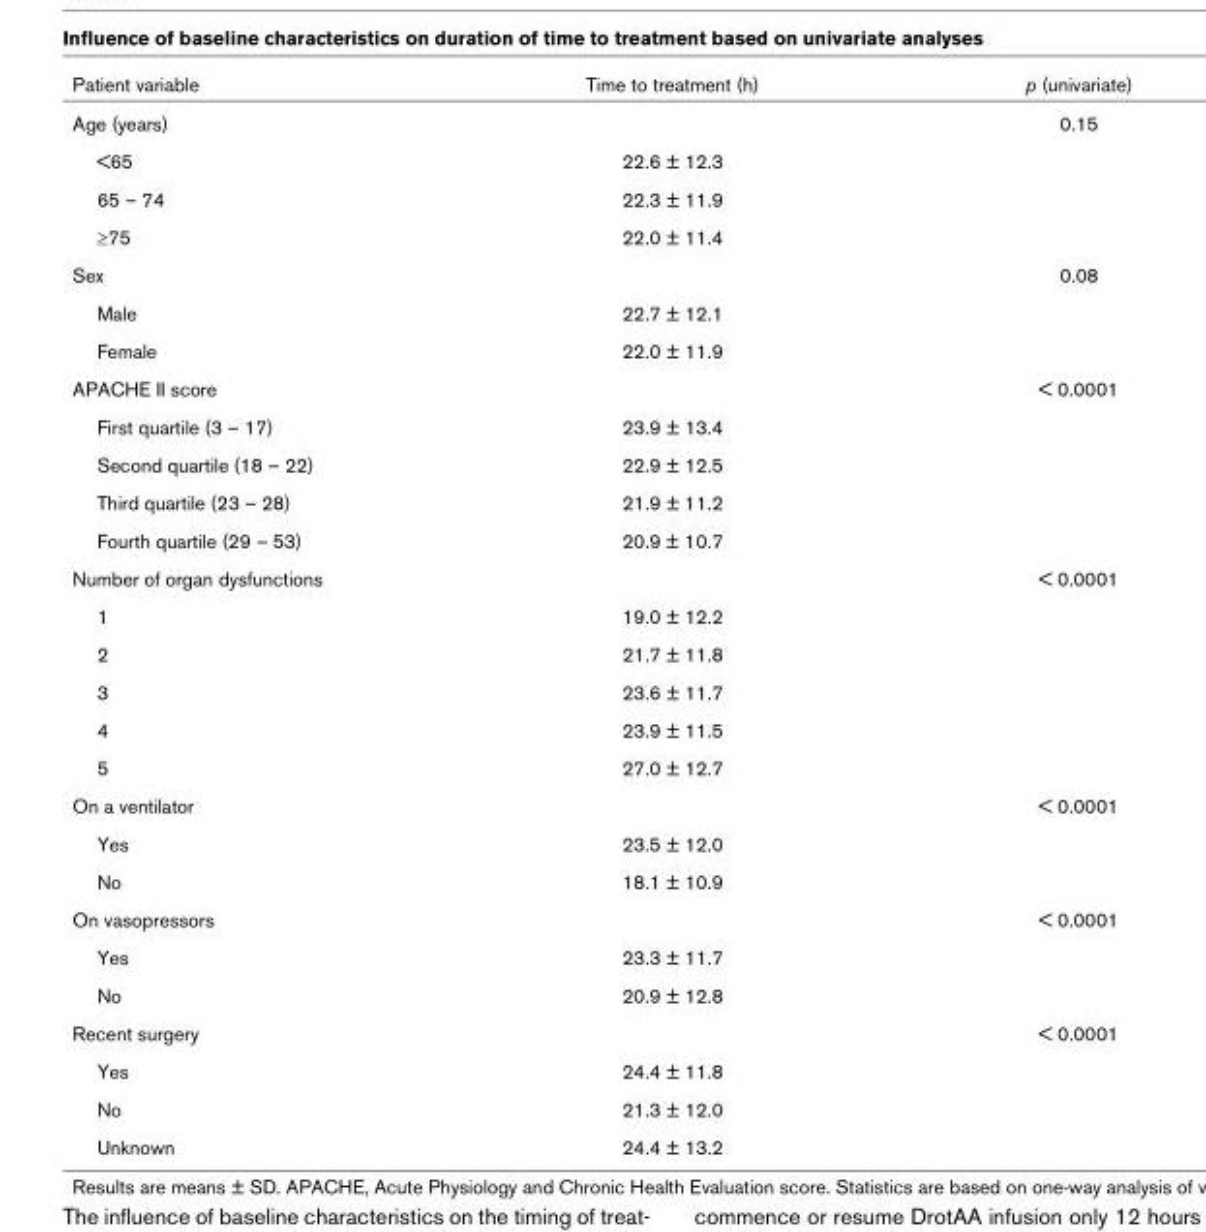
<table><thead><tr><td>Patient variable</td><td>Time to treatment (h)</td><td>p (univariate)</td></tr></thead><tbody><tr><td>Age (years)</td><td></td><td>0.15</td></tr><tr><td>&lt;65</td><td>22.6 ± 12.3</td><td></td></tr><tr><td>65 – 74</td><td>22.3 ± 11.9</td><td></td></tr><tr><td>≥75</td><td>22.0 ± 11.4</td><td></td></tr><tr><td>Sex</td><td></td><td>0.08</td></tr><tr><td>Male</td><td>22.7 ± 12.1</td><td></td></tr><tr><td>Female</td><td>22.0 ± 11.9</td><td></td></tr><tr><td>APACHE II score</td><td></td><td>&lt; 0.0001</td></tr><tr><td>First quartile (3 – 17)</td><td>23.9 ± 13.4</td><td></td></tr><tr><td>Second quartile (18 – 22)</td><td>22.9 ± 12.5</td><td></td></tr><tr><td>Third quartile (23 – 28)</td><td>21.9 ± 11.2</td><td></td></tr><tr><td>Fourth quartile (29 – 53)</td><td>20.9 ± 10.7</td><td></td></tr><tr><td>Number of organ dysfunctions</td><td></td><td>&lt; 0.0001</td></tr><tr><td>1</td><td>19.0 ± 12.2</td><td></td></tr><tr><td>2</td><td>21.7 ± 11.8</td><td></td></tr><tr><td>3</td><td>23.6 ± 11.7</td><td></td></tr><tr><td>4</td><td>23.9 ± 11.5</td><td></td></tr><tr><td>5</td><td>27.0 ± 12.7</td><td></td></tr><tr><td>On a ventilator</td><td></td><td>&lt; 0.0001</td></tr><tr><td>Yes</td><td>23.5 ± 12.0</td><td></td></tr><tr><td>No</td><td>18.1 ± 10.9</td><td></td></tr><tr><td>On vasopressors</td><td></td><td>&lt; 0.0001</td></tr><tr><td>Yes</td><td>23.3 ± 11.7</td><td></td></tr><tr><td>No</td><td>20.9 ± 12.8</td><td></td></tr><tr><td>Recent surgery</td><td></td><td>&lt; 0.0001</td></tr><tr><td>Yes</td><td>24.4 ± 11.8</td><td></td></tr><tr><td>No</td><td>21.3 ± 12.0</td><td></td></tr><tr><td>Unknown</td><td>24.4 ± 13.2</td><td></td></tr></tbody></table>